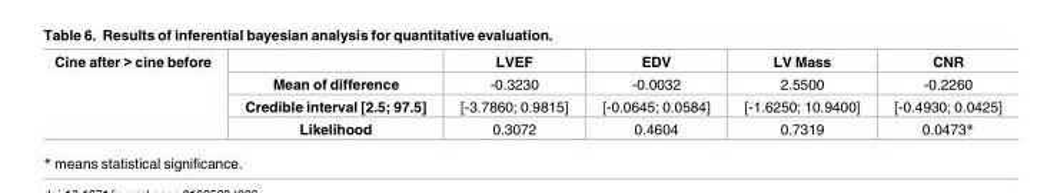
<table><tbody><tr><td rowspan="4">Cine after &gt; cine before</td><td></td><td>LVEF</td><td>EDV</td><td>LV Mass</td><td>CNR</td></tr><tr><td>Mean of difference</td><td>-0.3230</td><td>-0.0032</td><td>2.5500</td><td>-0.2260</td></tr><tr><td>Credible interval [2.5; 97.5]</td><td>[-3.7860; 0.9815]</td><td>[-0.0645; 0.0584]</td><td>[-1.6250; 10.9400]</td><td>[-0.4930; 0.0425]</td></tr><tr><td>Likelihood</td><td>0.3072</td><td>0.4604</td><td>0.7319</td><td>0.0473*</td></tr></tbody></table>